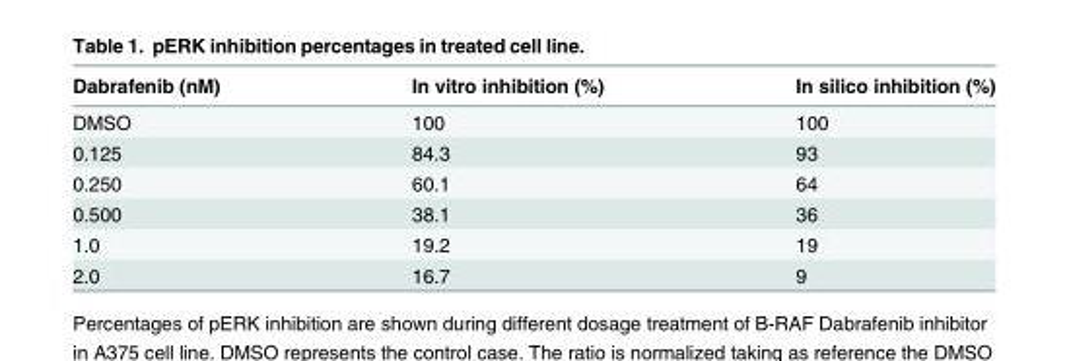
<table><thead><tr><td>Dabrafenib (nM)</td><td>In vitro inhibition (%)</td><td>In silico inhibition (%)</td></tr></thead><tbody><tr><td>DMSO</td><td>100</td><td>100</td></tr><tr><td>0.125</td><td>84.3</td><td>93</td></tr><tr><td>0.250</td><td>60.1</td><td>64</td></tr><tr><td>0.500</td><td>38.1</td><td>36</td></tr><tr><td>1.0</td><td>19.2</td><td>19</td></tr><tr><td>2.0</td><td>16.7</td><td>9</td></tr></tbody></table>